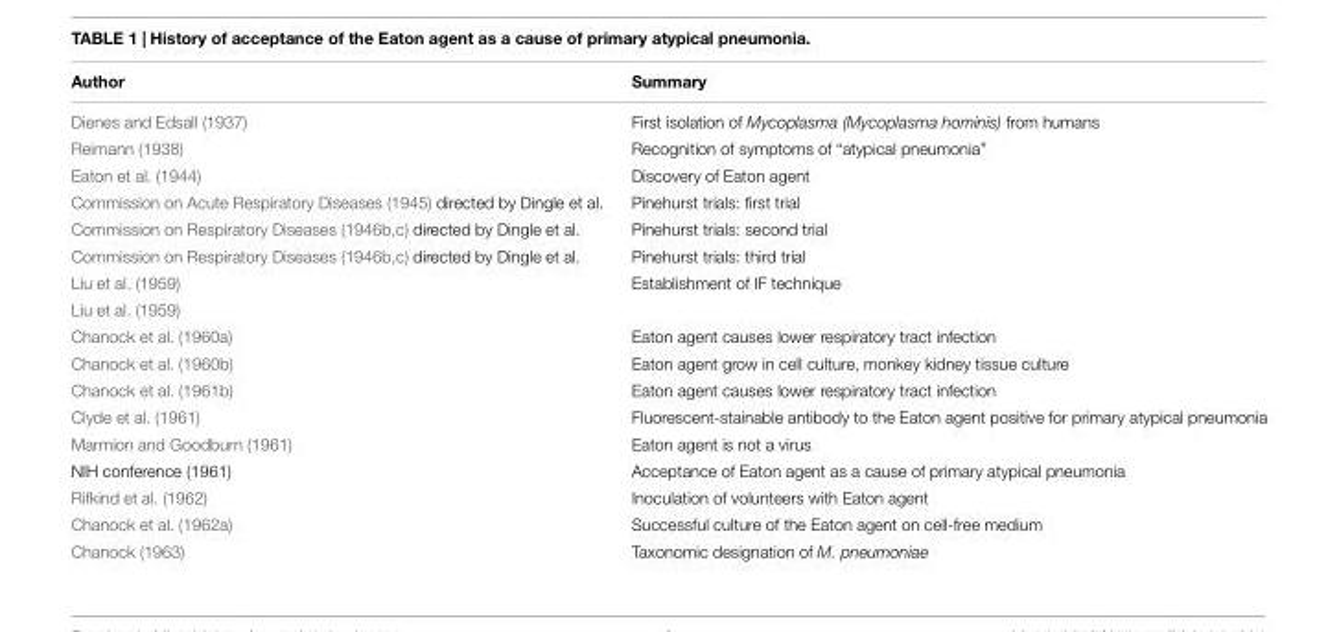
<table><thead><tr><td>Author</td><td>Summary</td></tr></thead><tbody><tr><td>Dienes and Edsall (1937)</td><td>First isolation of Mycoplasma (Mycoplasma hominis) from humans</td></tr><tr><td>Reimann (1938)</td><td>Recognition of symptoms of “atypical pneumonia”</td></tr><tr><td>Eaton et al. (1944)</td><td>Discovery of Eaton agent</td></tr><tr><td>Commission on Acute Respiratory Diseases (1945) directed by Dingle et al.</td><td>Pinehurst trials: first trial</td></tr><tr><td>Commission on Respiratory Diseases (1946b,c) directed by Dingle et al.</td><td>Pinehurst trials: second trial</td></tr><tr><td>Commission on Respiratory Diseases (1946b,c) directed by Dingle et al.</td><td>Pinehurst trials: third trial</td></tr><tr><td>Liu et al. (1959)</td><td>Establishment of IF technique</td></tr><tr><td colspan="2">Liu et al. (1959)</td></tr><tr><td>Chanock et al. (1960a)</td><td>Eaton agent causes lower respiratory tract infection</td></tr><tr><td>Chanock et al. (1960b)</td><td>Eaton agent grow in cell culture, monkey kidney tissue culture</td></tr><tr><td>Chanock et al. (1961b)</td><td>Eaton agent causes lower respiratory tract infection</td></tr><tr><td>Clyde et al. (1961)</td><td>Fluorescent-stainable antibody to the Eaton agent positive for primary atypical pneumonia</td></tr><tr><td>Marmion and Goodburn (1961)</td><td>Eaton agent is not a virus</td></tr><tr><td>NIH conference (1961)</td><td>Acceptance of Eaton agent as a cause of primary atypical pneumonia</td></tr><tr><td>Rifkind et al. (1962)</td><td>Inoculation of volunteers with Eaton agent</td></tr><tr><td>Chanock et al. (1962a)</td><td>Successful culture of the Eaton agent on cell-free medium</td></tr><tr><td>Chanock (1963)</td><td>Taxonomic designation of M. pneumoniae</td></tr></tbody></table>